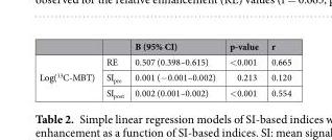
<table><thead><tr><td></td><td></td><td>B (95% CI)</td><td>p-value</td><td>r</td></tr></thead><tbody><tr><td rowspan="3">Log(<sup>13</sup>C-MBT)</td><td>RE</td><td>0.507 (0.398–0.615)</td><td>&lt;0.001</td><td>0.665</td></tr><tr><td>SI<sub>pre</sub></td><td>0.001 (−0.001–0.002)</td><td>0.213</td><td>0.120</td></tr><tr><td>SI<sub>post</sub></td><td>0.002 (0.001–0.002)</td><td>&lt;0.001</td><td>0.554</td></tr></tbody></table>